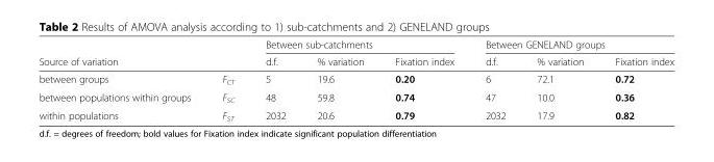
<table><thead><tr><td rowspan="2">Source of variation</td><td rowspan="2"></td><td colspan="3">Between sub-catchments</td><td colspan="3">Between GENELAND groups</td></tr><tr><td>d.f.</td><td>% variation</td><td>Fixation index</td><td>d.f.</td><td>% variation</td><td>Fixation index</td></tr></thead><tbody><tr><td>between groups</td><td>F<sub>CT</sub></td><td>5</td><td>19.6</td><td>0.20</td><td>6</td><td>72.1</td><td>0.72</td></tr><tr><td>between populations within groups</td><td>F<sub>SC</sub></td><td>48</td><td>59.8</td><td>0.74</td><td>47</td><td>10.0</td><td>0.36</td></tr><tr><td>within populations</td><td>F<sub>ST</sub></td><td>2032</td><td>20.6</td><td>0.79</td><td>2032</td><td>17.9</td><td>0.82</td></tr></tbody></table>